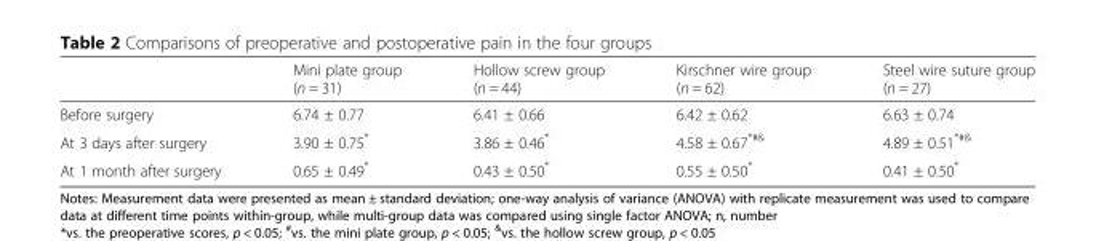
<table><thead><tr><td></td><td>Mini plate group (n = 31)</td><td>Hollow screw group (n = 44)</td><td>Kirschner wire group (n = 62)</td><td>Steel wire suture group (n = 27)</td></tr></thead><tbody><tr><td>Before surgery</td><td>6.74 ± 0.77</td><td>6.41 ± 0.66</td><td>6.42 ± 0.62</td><td>6.63 ± 0.74</td></tr><tr><td>At 3 days after surgery</td><td>3.90 ± 0.75*</td><td>3.86 ± 0.46*</td><td>4.58 ± 0.67<sup>*#&amp;</sup></td><td>4.89 ± 0.51<sup>*#&amp;</sup></td></tr><tr><td>At 1 month after surgery</td><td>0.65 ± 0.49*</td><td>0.43 ± 0.50*</td><td>0.55 ± 0.50*</td><td>0.41 ± 0.50*</td></tr></tbody></table>